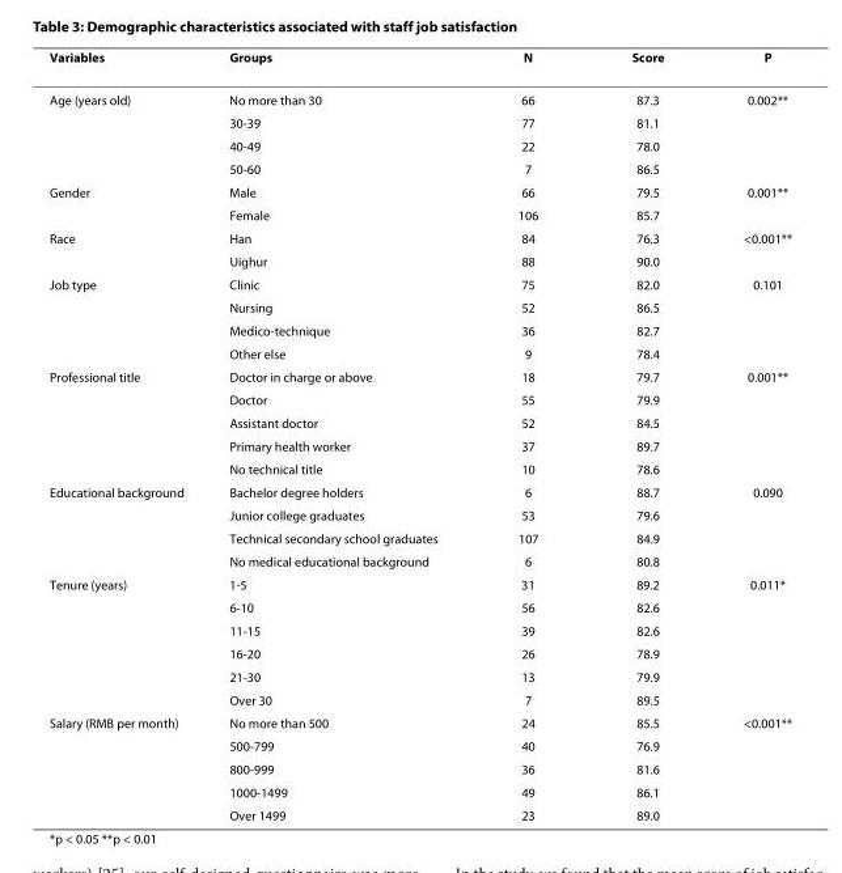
<table><thead><tr><td>Variables</td><td>Groups</td><td>N</td><td>Score</td><td>P</td></tr></thead><tbody><tr><td rowspan="4">Age (years old)</td><td>No more than 30</td><td>66</td><td>87.3</td><td>0.002**</td></tr><tr><td>30-39</td><td>77</td><td>81.1</td><td></td></tr><tr><td>40-49</td><td>22</td><td>78.0</td><td></td></tr><tr><td>50-60</td><td>7</td><td>86.5</td><td></td></tr><tr><td rowspan="2">Gender</td><td>Male</td><td>66</td><td>79.5</td><td>0.001**</td></tr><tr><td>Female</td><td>106</td><td>85.7</td><td></td></tr><tr><td rowspan="2">Race</td><td>Han</td><td>84</td><td>76.3</td><td>&lt;0.001**</td></tr><tr><td>Uighur</td><td>88</td><td>90.0</td><td></td></tr><tr><td rowspan="4">Job type</td><td>Clinic</td><td>75</td><td>82.0</td><td>0.101</td></tr><tr><td>Nursing</td><td>52</td><td>86.5</td><td></td></tr><tr><td>Medico-technique</td><td>36</td><td>82.7</td><td></td></tr><tr><td>Other else</td><td>9</td><td>78.4</td><td></td></tr><tr><td rowspan="5">Professional title</td><td>Doctor in charge or above</td><td>18</td><td>79.7</td><td>0.001**</td></tr><tr><td>Doctor</td><td>55</td><td>79.9</td><td></td></tr><tr><td>Assistant doctor</td><td>52</td><td>84.5</td><td></td></tr><tr><td>Primary health worker</td><td>37</td><td>89.7</td><td></td></tr><tr><td>No technical title</td><td>10</td><td>78.6</td><td></td></tr><tr><td rowspan="4">Educational background</td><td>Bachelor degree holders</td><td>6</td><td>88.7</td><td>0.090</td></tr><tr><td>Junior college graduates</td><td>53</td><td>79.6</td><td></td></tr><tr><td>Technical secondary school graduates</td><td>107</td><td>84.9</td><td></td></tr><tr><td>No medical educational background</td><td>6</td><td>80.8</td><td></td></tr><tr><td rowspan="6">Tenure (years)</td><td>1-5</td><td>31</td><td>89.2</td><td>0.011*</td></tr><tr><td>6-10</td><td>56</td><td>82.6</td><td></td></tr><tr><td>11-15</td><td>39</td><td>82.6</td><td></td></tr><tr><td>16-20</td><td>26</td><td>78.9</td><td></td></tr><tr><td>21-30</td><td>13</td><td>79.9</td><td></td></tr><tr><td>Over 30</td><td>7</td><td>89.5</td><td></td></tr><tr><td rowspan="5">Salary (RMB per month)</td><td>No more than 500</td><td>24</td><td>85.5</td><td>&lt;0.001**</td></tr><tr><td>500-799</td><td>40</td><td>76.9</td><td></td></tr><tr><td>800-999</td><td>36</td><td>81.6</td><td></td></tr><tr><td>1000-1499</td><td>49</td><td>86.1</td><td></td></tr><tr><td>Over 1499</td><td>23</td><td>89.0</td><td></td></tr></tbody></table>